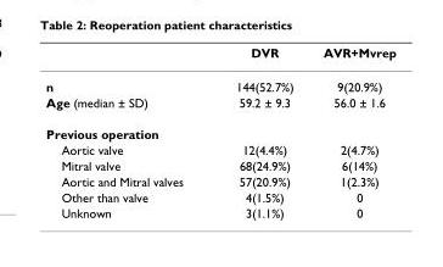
<table><thead><tr><td></td><td>DVR</td><td>AVR+Mvrep</td></tr></thead><tbody><tr><td>n</td><td>144(52.7%)</td><td>9(20.9%)</td></tr><tr><td>Age (median ± SD)</td><td>59.2 ± 9.3</td><td>56.0 ± 1.6</td></tr><tr><td colspan="3">Previous operation</td></tr><tr><td>Aortic valve</td><td>12(4.4%)</td><td>2(4.7%)</td></tr><tr><td>Mitral valve</td><td>68(24.9%)</td><td>6(14%)</td></tr><tr><td>Aortic and Mitral valves</td><td>57(20.9%)</td><td>1(2.3%)</td></tr><tr><td>Other than valve</td><td>4(1.5%)</td><td>0</td></tr><tr><td>Unknown</td><td>3(1.1%)</td><td>0</td></tr></tbody></table>